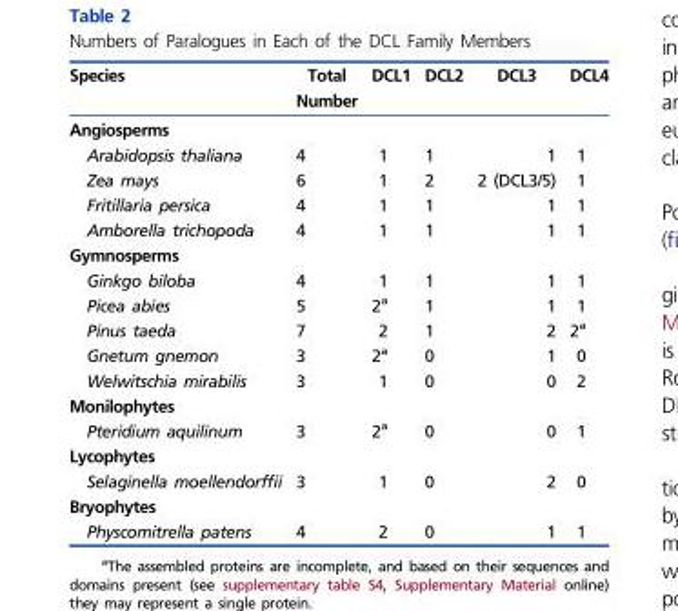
<table><thead><tr><td>Species</td><td>Total Number</td><td>DCL1</td><td>DCL2</td><td>DCL3</td><td>DCL4</td></tr></thead><tbody><tr><td colspan="6">Angiosperms</td></tr><tr><td>Arabidopsis thaliana</td><td>4</td><td>1</td><td>1</td><td>1</td><td>1</td></tr><tr><td>Zea mays</td><td>6</td><td>1</td><td>2</td><td>2 (DCL3/5)</td><td>1</td></tr><tr><td>Fritillaria persica</td><td>4</td><td>1</td><td>1</td><td>1</td><td>1</td></tr><tr><td>Amborella trichopoda</td><td>4</td><td>1</td><td>1</td><td>1</td><td>1</td></tr><tr><td colspan="6">Gymnosperms</td></tr><tr><td>Ginkgo biloba</td><td>4</td><td>1</td><td>1</td><td>1</td><td>1</td></tr><tr><td>Picea abies</td><td>5</td><td>2<sup>a</sup></td><td>1</td><td>1</td><td>1</td></tr><tr><td>Pinus taeda</td><td>7</td><td>2</td><td>1</td><td>2</td><td>2<sup>a</sup></td></tr><tr><td>Gnetum gnemon</td><td>3</td><td>2<sup>a</sup></td><td>0</td><td>1</td><td>0</td></tr><tr><td>Welwitschia mirabilis</td><td>3</td><td>1</td><td>0</td><td>0</td><td>2</td></tr><tr><td colspan="6">Monilophytes</td></tr><tr><td>Pteridium aquilinum</td><td>3</td><td>2<sup>a</sup></td><td>0</td><td>0</td><td>1</td></tr><tr><td colspan="6">Lycophytes</td></tr><tr><td>Selaginella moellendorffii</td><td>3</td><td>1</td><td>0</td><td>2</td><td>0</td></tr><tr><td colspan="6">Bryophytes</td></tr><tr><td>Physcomitrella patens</td><td>4</td><td>2</td><td>0</td><td>1</td><td>1</td></tr></tbody></table>